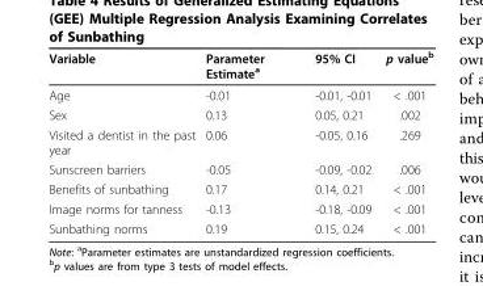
<table><thead><tr><td>Variable</td><td>Parameter Estimate<sup>a</sup></td><td>95% CI</td><td>p value<sup>b</sup></td></tr></thead><tbody><tr><td>Age</td><td>-0.01</td><td>-0.01, -0.01</td><td>&lt; .001</td></tr><tr><td>Sex</td><td>0.13</td><td>0.05, 0.21</td><td>.002</td></tr><tr><td>Visited a dentist in the past year</td><td>0.06</td><td>-0.05, 0.16</td><td>.269</td></tr><tr><td>Sunscreen barriers</td><td>-0.05</td><td>-0.09, -0.02</td><td>.006</td></tr><tr><td>Benefits of sunbathing</td><td>0.17</td><td>0.14, 0.21</td><td>&lt; .001</td></tr><tr><td>Image norms for tanness</td><td>-0.13</td><td>-0.18, -0.09</td><td>&lt; .001</td></tr><tr><td>Sunbathing norms</td><td>0.19</td><td>0.15, 0.24</td><td>&lt; .001</td></tr></tbody></table>